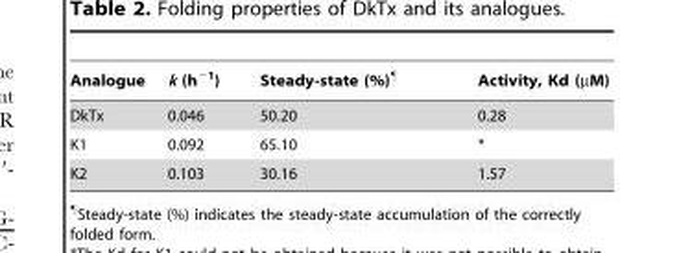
<table><thead><tr><td>Analogue</td><td>k (h<sup>−1</sup>)</td><td>Steady-state (%)¶</td><td>Activity, Kd (µM)</td></tr></thead><tbody><tr><td>DkTx</td><td>0.046</td><td>50.20</td><td>0.28</td></tr><tr><td>K1</td><td>0.092</td><td>65.10</td><td>*</td></tr><tr><td>K2</td><td>0.103</td><td>30.16</td><td>1.57</td></tr></tbody></table>